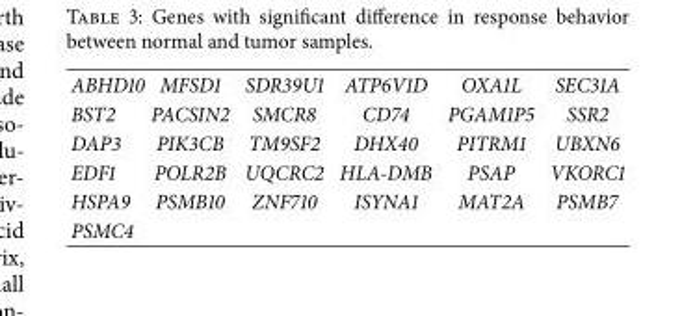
<table><tbody><tr><td>ABHD10</td><td>MFSD1</td><td>SDR39U1</td><td>ATP6V1D</td><td>OXA1L</td><td>SEC31A</td></tr><tr><td>BST2</td><td>PACSIN2</td><td>SMCR8</td><td>CD74</td><td>PGAM1P5</td><td>SSR2</td></tr><tr><td>DAP3</td><td>PIK3CB</td><td>TM9SF2</td><td>DHX40</td><td>PITRM1</td><td>UBXN6</td></tr><tr><td>EDF1</td><td>POLR2B</td><td>UQCRC2</td><td>HLA-DMB</td><td>PSAP</td><td>VKORC1</td></tr><tr><td>HSPA9</td><td>PSMB10</td><td>ZNF710</td><td>ISYNA1</td><td>MAT2A</td><td>PSMB7</td></tr><tr><td>PSMC4</td><td></td><td></td><td></td><td></td><td></td></tr></tbody></table>